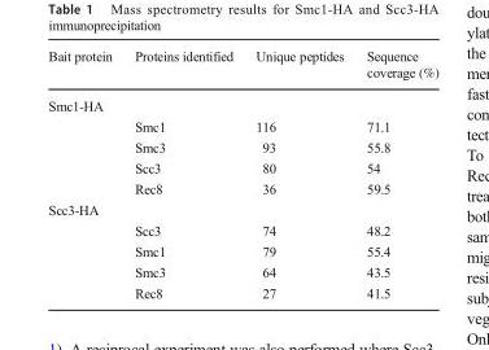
<table><thead><tr><td>Bait protein</td><td>Proteins identified</td><td>Unique peptides</td><td>Sequence coverage (%)</td></tr></thead><tbody><tr><td colspan="4">Smc1-HA</td></tr><tr><td></td><td>Smc1</td><td>116</td><td>71.1</td></tr><tr><td></td><td>Smc3</td><td>93</td><td>55.8</td></tr><tr><td></td><td>Scc3</td><td>80</td><td>54</td></tr><tr><td></td><td>Rec8</td><td>36</td><td>59.5</td></tr><tr><td colspan="4">Scc3-HA</td></tr><tr><td></td><td>Scc3</td><td>74</td><td>48.2</td></tr><tr><td></td><td>Smc1</td><td>79</td><td>55.4</td></tr><tr><td></td><td>Smc3</td><td>64</td><td>43.5</td></tr><tr><td></td><td>Rec8</td><td>27</td><td>41.5</td></tr></tbody></table>